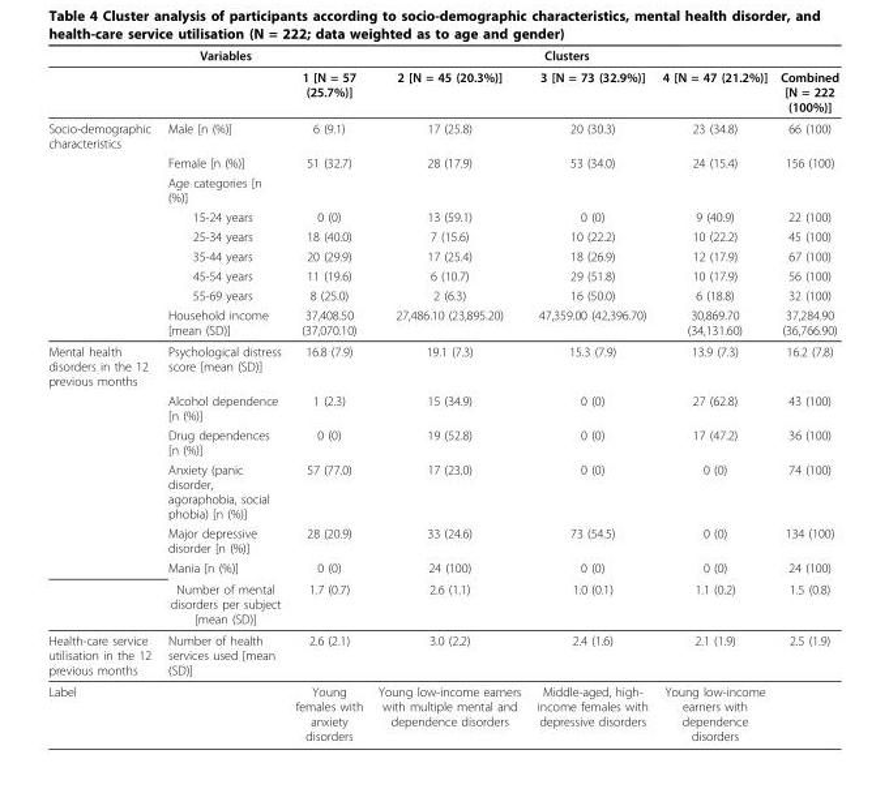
<table><thead><tr><td rowspan="2"></td><td rowspan="2">Variables</td><td colspan="5">Clusters</td></tr><tr><td>1 [N = 57 (25.7%)]</td><td>2 [N = 45 (20.3%)]</td><td>3 [N = 73 (32.9%)]</td><td>4 [N = 47 (21.2%)]</td><td>Combined [N = 222 (100%)]</td></tr></thead><tbody><tr><td rowspan="9">Socio-demographic characteristics</td><td>Male [n (%)]</td><td>6 (9.1)</td><td>17 (25.8)</td><td>20 (30.3)</td><td>23 (34.8)</td><td>66 (100)</td></tr><tr><td>Female [n (%)]</td><td>51 (32.7)</td><td>28 (17.9)</td><td>53 (34.0)</td><td>24 (15.4)</td><td>156 (100)</td></tr><tr><td>Age categories [n (%)]</td><td></td><td></td><td></td><td></td><td></td></tr><tr><td>15-24 years</td><td>0 (0)</td><td>13 (59.1)</td><td>0 (0)</td><td>9 (40.9)</td><td>22 (100)</td></tr><tr><td>25-34 years</td><td>18 (40.0)</td><td>7 (15.6)</td><td>10 (22.2)</td><td>10 (22.2)</td><td>45 (100)</td></tr><tr><td>35-44 years</td><td>20 (29.9)</td><td>17 (25.4)</td><td>18 (26.9)</td><td>12 (17.9)</td><td>67 (100)</td></tr><tr><td>45-54 years</td><td>11 (19.6)</td><td>6 (10.7)</td><td>29 (51.8)</td><td>10 (17.9)</td><td>56 (100)</td></tr><tr><td>55-69 years</td><td>8 (25.0)</td><td>2 (6.3)</td><td>16 (50.0)</td><td>6 (18.8)</td><td>32 (100)</td></tr><tr><td>Household income [mean (SD)]</td><td>37,408.50 (37,070.10)</td><td>27,486.10 (23,895.20)</td><td>47,359.00 (42,396.70)</td><td>30,869.70 (34,131.60)</td><td>37,284.90 (36,766.90)</td></tr><tr><td rowspan="7">Mental health disorders in the 12 previous months</td><td>Psychological distress score [mean (SD)]</td><td>16.8 (7.9)</td><td>19.1 (7.3)</td><td>15.3 (7.9)</td><td>13.9 (7.3)</td><td>16.2 (7.8)</td></tr><tr><td>Alcohol dependence [n (%)]</td><td>1 (2.3)</td><td>15 (34.9)</td><td>0 (0)</td><td>27 (62.8)</td><td>43 (100)</td></tr><tr><td>Drug dependences [n (%)]</td><td>0 (0)</td><td>19 (52.8)</td><td>0 (0)</td><td>17 (47.2)</td><td>36 (100)</td></tr><tr><td>Anxiety (panic disorder, agoraphobia, social phobia) [n (%)]</td><td>57 (77.0)</td><td>17 (23.0)</td><td>0 (0)</td><td>0 (0)</td><td>74 (100)</td></tr><tr><td>Major depressive disorder [n (%)]</td><td>28 (20.9)</td><td>33 (24.6)</td><td>73 (54.5)</td><td>0 (0)</td><td>134 (100)</td></tr><tr><td>Mania [n (%)]</td><td>0 (0)</td><td>24 (100)</td><td>0 (0)</td><td>0 (0)</td><td>24 (100)</td></tr><tr><td>Number of mental disorders per subject [mean (SD)]</td><td>1.7 (0.7)</td><td>2.6 (1.1)</td><td>1.0 (0.1)</td><td>1.1 (0.2)</td><td>1.5 (0.8)</td></tr><tr><td>Health-care service utilisation in the 12 previous months</td><td>Number of health services used [mean (SD)]</td><td>2.6 (2.1)</td><td>3.0 (2.2)</td><td>2.4 (1.6)</td><td>2.1 (1.9)</td><td>2.5 (1.9)</td></tr><tr><td>Label</td><td></td><td>Young females with anxiety disorders</td><td>Young low-income earners with multiple mental and dependence disorders</td><td>Middle-aged, high- income females with depressive disorders</td><td>Young low-income earners with dependence disorders</td><td></td></tr></tbody></table>